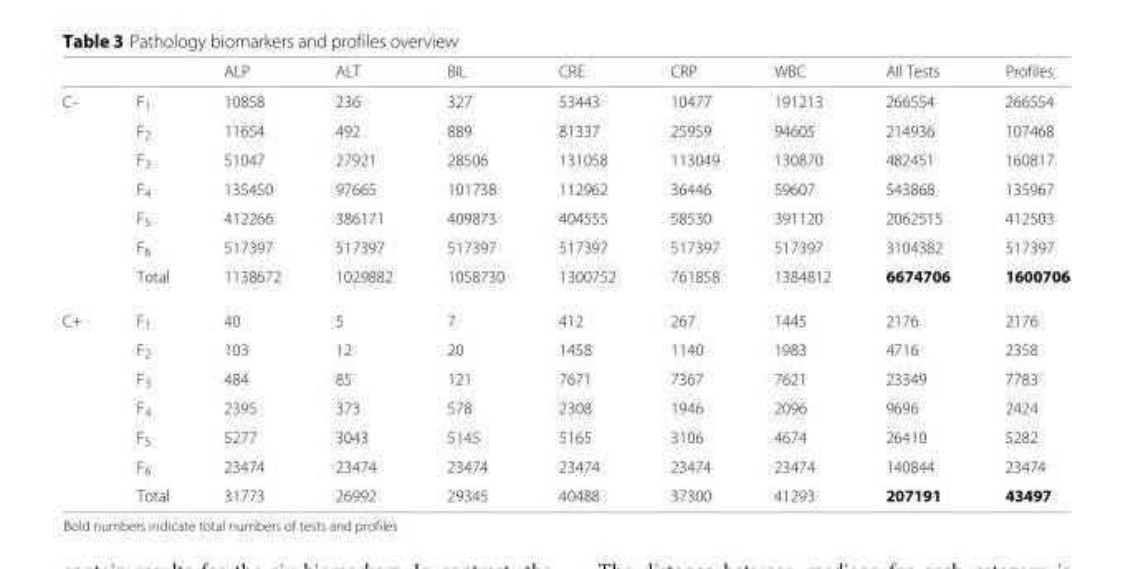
<table><thead><tr><td></td><td></td><td>ALP</td><td>ALT</td><td>BIL</td><td>CRE</td><td>CRP</td><td>WBC</td><td>All Tests</td><td>Profiles</td></tr></thead><tbody><tr><td rowspan="7">C-</td><td>F<sub>1</sub></td><td>10858</td><td>236</td><td>327</td><td>53443</td><td>10477</td><td>191213</td><td>266554</td><td>266554</td></tr><tr><td>F<sub>2</sub></td><td>11654</td><td>492</td><td>889</td><td>81337</td><td>25959</td><td>94605</td><td>214936</td><td>107468</td></tr><tr><td>F<sub>3</sub></td><td>51047</td><td>27921</td><td>28506</td><td>131058</td><td>113049</td><td>130870</td><td>482451</td><td>160817</td></tr><tr><td>F<sub>4</sub></td><td>135450</td><td>97665</td><td>101738</td><td>112962</td><td>36446</td><td>59607</td><td>543868</td><td>135967</td></tr><tr><td>F<sub>5</sub></td><td>412266</td><td>386171</td><td>409873</td><td>404555</td><td>58530</td><td>391120</td><td>2062515</td><td>412503</td></tr><tr><td>F<sub>6</sub></td><td>517397</td><td>517397</td><td>517397</td><td>517397</td><td>517397</td><td>517397</td><td>3104382</td><td>517397</td></tr><tr><td>Total</td><td>1138672</td><td>1029882</td><td>1058730</td><td>1300752</td><td>761858</td><td>1384812</td><td>6674706</td><td>1600706</td></tr><tr><td rowspan="7">C+</td><td>F<sub>1</sub></td><td>40</td><td>5</td><td>7</td><td>412</td><td>267</td><td>1445</td><td>2176</td><td>2176</td></tr><tr><td>F<sub>2</sub></td><td>103</td><td>12</td><td>20</td><td>1458</td><td>1140</td><td>1983</td><td>4716</td><td>2358</td></tr><tr><td>F<sub>3</sub></td><td>484</td><td>85</td><td>121</td><td>7671</td><td>7367</td><td>7621</td><td>23349</td><td>7783</td></tr><tr><td>F<sub>4</sub></td><td>2395</td><td>373</td><td>578</td><td>2308</td><td>1946</td><td>2096</td><td>9696</td><td>2424</td></tr><tr><td>F<sub>5</sub></td><td>5277</td><td>3043</td><td>5145</td><td>5165</td><td>3106</td><td>4674</td><td>26410</td><td>5282</td></tr><tr><td>F<sub>6</sub></td><td>23474</td><td>23474</td><td>23474</td><td>23474</td><td>23474</td><td>23474</td><td>140844</td><td>23474</td></tr><tr><td>Total</td><td>31773</td><td>26992</td><td>29345</td><td>40488</td><td>37300</td><td>41293</td><td>207191</td><td>43497</td></tr></tbody></table>